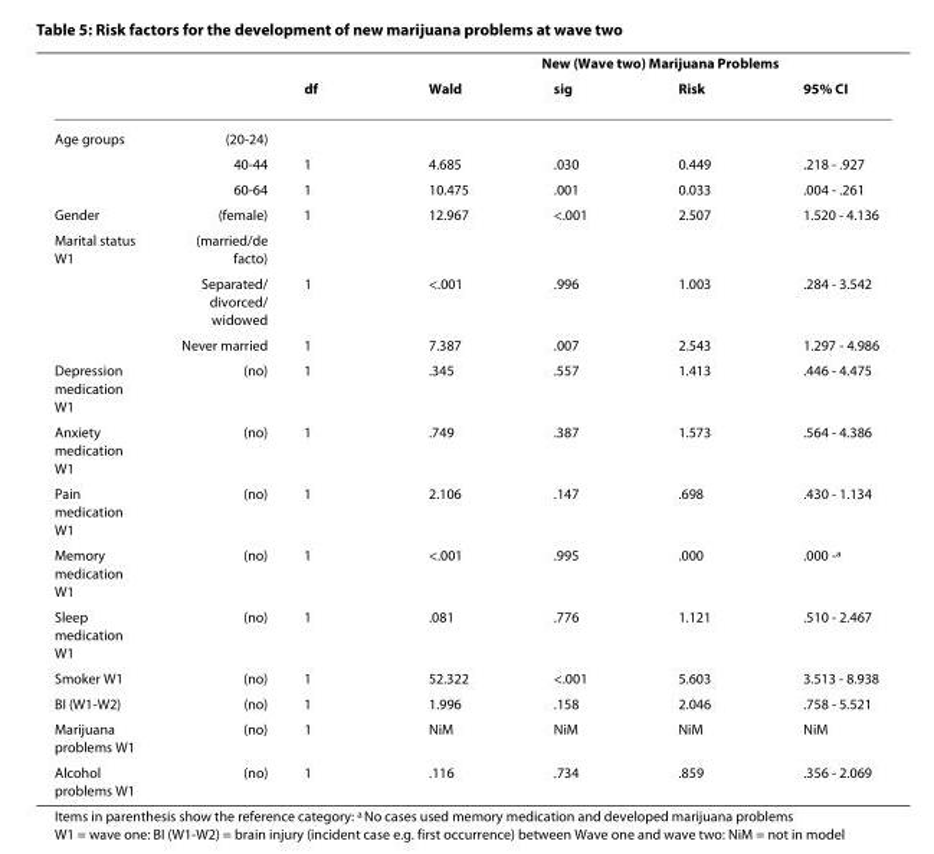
<table><thead><tr><td rowspan="2"></td><td rowspan="2"></td><td rowspan="2">df</td><td colspan="4">New (Wave two) Marijuana Problems</td></tr><tr><td>Wald</td><td>sig</td><td>Risk</td><td>95% CI</td></tr></thead><tbody><tr><td rowspan="3">Age groups</td><td>(20-24)</td><td></td><td></td><td></td><td></td><td></td></tr><tr><td>40-44</td><td>1</td><td>4.685</td><td>.030</td><td>0.449</td><td>.218 - .927</td></tr><tr><td>60-64</td><td>1</td><td>10.475</td><td>.001</td><td>0.033</td><td>.004 - .261</td></tr><tr><td>Gender</td><td>(female)</td><td>1</td><td>12.967</td><td>&lt;.001</td><td>2.507</td><td>1.520 - 4.136</td></tr><tr><td rowspan="3">Marital status W1</td><td>(married/de facto)</td><td></td><td></td><td></td><td></td><td></td></tr><tr><td>Separated/ divorced/ widowed</td><td>1</td><td>&lt;.001</td><td>.996</td><td>1.003</td><td>.284 - 3.542</td></tr><tr><td>Never married</td><td>1</td><td>7.387</td><td>.007</td><td>2.543</td><td>1.297 - 4.986</td></tr><tr><td>Depression medication W1</td><td>(no)</td><td>1</td><td>.345</td><td>.557</td><td>1.413</td><td>.446 - 4.475</td></tr><tr><td>Anxiety medication W1</td><td>(no)</td><td>1</td><td>.749</td><td>.387</td><td>1.573</td><td>.564 - 4.386</td></tr><tr><td>Pain medication W1</td><td>(no)</td><td>1</td><td>2.106</td><td>.147</td><td>.698</td><td>.430 - 1.134</td></tr><tr><td>Memory medication W1</td><td>(no)</td><td>1</td><td>&lt;.001</td><td>.995</td><td>.000</td><td>.000 -<sup>a</sup></td></tr><tr><td>Sleep medication W1</td><td>(no)</td><td>1</td><td>.081</td><td>.776</td><td>1.121</td><td>.510 - 2.467</td></tr><tr><td>Smoker W1</td><td>(no)</td><td>1</td><td>52.322</td><td>&lt;.001</td><td>5.603</td><td>3.513 - 8.938</td></tr><tr><td>BI (W1-W2)</td><td>(no)</td><td>1</td><td>1.996</td><td>.158</td><td>2.046</td><td>.758 - 5.521</td></tr><tr><td>Marijuana problems W1</td><td>(no)</td><td>1</td><td>NiM</td><td>NiM</td><td>NiM</td><td>NiM</td></tr><tr><td>Alcohol problems W1</td><td>(no)</td><td>1</td><td>.116</td><td>.734</td><td>.859</td><td>.356 - 2.069</td></tr></tbody></table>